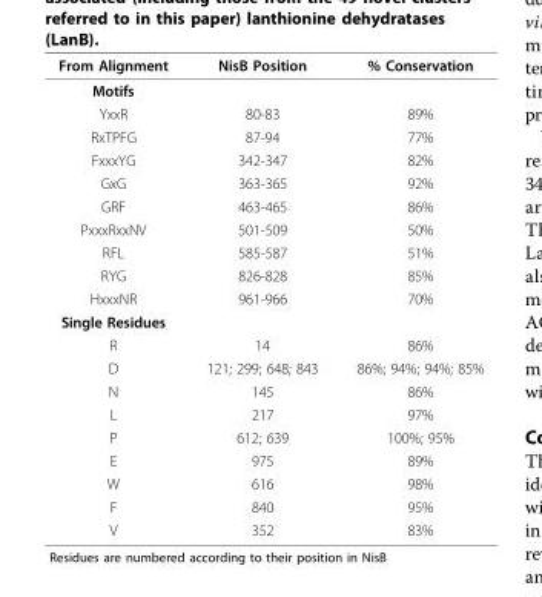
<table><thead><tr><td>From Alignment</td><td>NisB Position</td><td>% Conservation</td></tr></thead><tbody><tr><td colspan="3">Motifs</td></tr><tr><td>YxxR</td><td>80-83</td><td>89%</td></tr><tr><td>RxTPFG</td><td>87-94</td><td>77%</td></tr><tr><td>FxxxYG</td><td>342-347</td><td>82%</td></tr><tr><td>GxG</td><td>363-365</td><td>92%</td></tr><tr><td>GRF</td><td>463-465</td><td>86%</td></tr><tr><td>PxxxRxxNV</td><td>501-509</td><td>50%</td></tr><tr><td>RFL</td><td>585-587</td><td>51%</td></tr><tr><td>RYG</td><td>826-828</td><td>85%</td></tr><tr><td>HxxxNR</td><td>961-966</td><td>70%</td></tr><tr><td colspan="3">Single Residues</td></tr><tr><td>R</td><td>14</td><td>86%</td></tr><tr><td>D</td><td>121; 299; 648; 843</td><td>86%; 94%; 94%; 85%</td></tr><tr><td>N</td><td>145</td><td>86%</td></tr><tr><td>L</td><td>217</td><td>97%</td></tr><tr><td>P</td><td>612; 639</td><td>100%; 95%</td></tr><tr><td>E</td><td>975</td><td>89%</td></tr><tr><td>W</td><td>616</td><td>98%</td></tr><tr><td>F</td><td>840</td><td>95%</td></tr><tr><td>V</td><td>352</td><td>83%</td></tr></tbody></table>